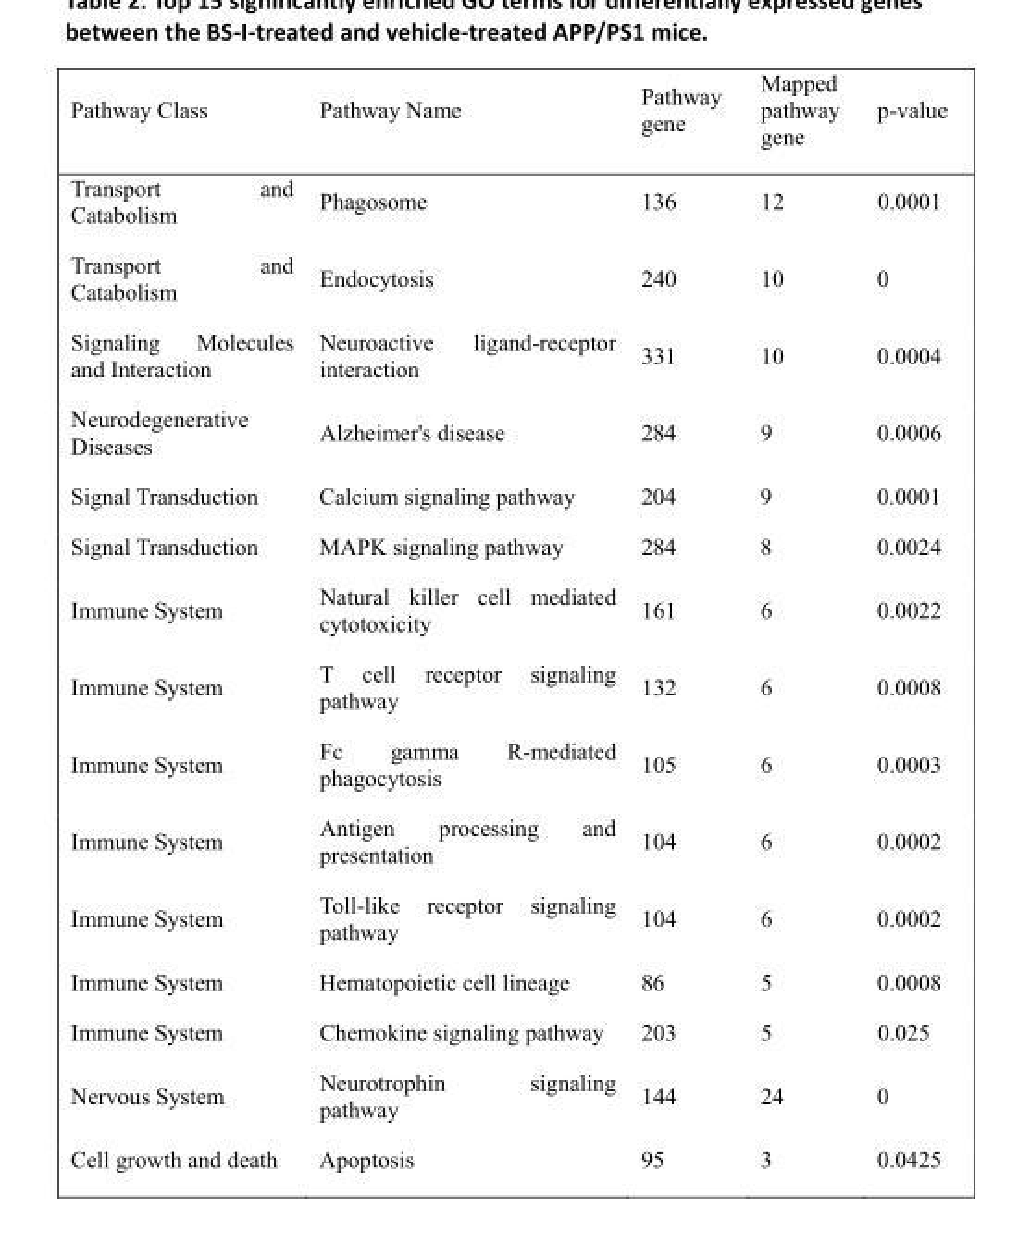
<table><thead><tr><td>Pathway Class</td><td>Pathway Name</td><td>Pathway gene</td><td>Mapped pathway gene</td><td>p-value</td></tr></thead><tbody><tr><td>Transport and Catabolism</td><td>Phagosome</td><td>136</td><td>12</td><td>0.0001</td></tr><tr><td>Transport and Catabolism</td><td>Endocytosis</td><td>240</td><td>10</td><td>0</td></tr><tr><td>Signaling Molecules and Interaction</td><td>Neuroactive ligand-receptor interaction</td><td>331</td><td>10</td><td>0.0004</td></tr><tr><td>Neurodegenerative Diseases</td><td>Alzheimer&#x27;s disease</td><td>284</td><td>9</td><td>0.0006</td></tr><tr><td>Signal Transduction</td><td>Calcium signaling pathway</td><td>204</td><td>9</td><td>0.0001</td></tr><tr><td>Signal Transduction</td><td>MAPK signaling pathway</td><td>284</td><td>8</td><td>0.0024</td></tr><tr><td>Immune System</td><td>Natural killer cell mediated cytotoxicity</td><td>161</td><td>6</td><td>0.0022</td></tr><tr><td>Immune System</td><td>T cell receptor signaling pathway</td><td>132</td><td>6</td><td>0.0008</td></tr><tr><td>Immune System</td><td>Fc gamma R-mediated phagocytosis</td><td>105</td><td>6</td><td>0.0003</td></tr><tr><td>Immune System</td><td>Antigen processing and presentation</td><td>104</td><td>6</td><td>0.0002</td></tr><tr><td>Immune System</td><td>Toll-like receptor signaling pathway</td><td>104</td><td>6</td><td>0.0002</td></tr><tr><td>Immune System</td><td>Hematopoietic cell lineage</td><td>86</td><td>5</td><td>0.0008</td></tr><tr><td>Immune System</td><td>Chemokine signaling pathway</td><td>203</td><td>5</td><td>0.025</td></tr><tr><td>Nervous System</td><td>Neurotrophin signaling pathway</td><td>144</td><td>24</td><td>0</td></tr><tr><td>Cell growth and death</td><td>Apoptosis</td><td>95</td><td>3</td><td>0.0425</td></tr></tbody></table>